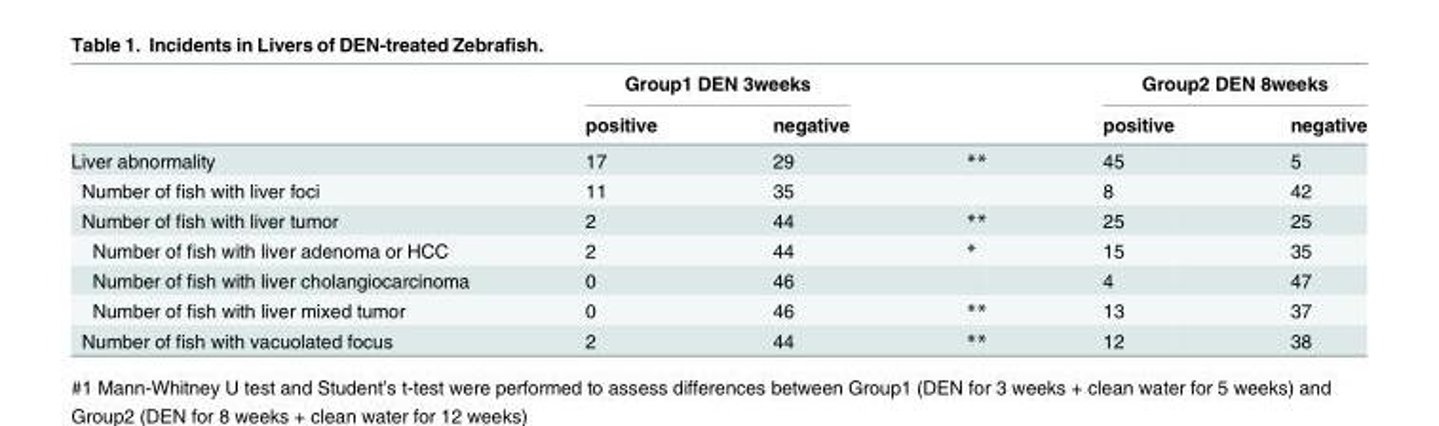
<table><thead><tr><td rowspan="2"></td><td colspan="2">Group1 DEN 3weeks</td><td rowspan="2"></td><td colspan="2">Group2 DEN 8weeks</td></tr><tr><td>positive</td><td>negative</td><td>positive</td><td>negative</td></tr></thead><tbody><tr><td>Liver abnormality</td><td>17</td><td>29</td><td>**</td><td>45</td><td>5</td></tr><tr><td>Number of fish with liver foci</td><td>11</td><td>35</td><td></td><td>8</td><td>42</td></tr><tr><td>Number of fish with liver tumor</td><td>2</td><td>44</td><td>**</td><td>25</td><td>25</td></tr><tr><td>Number of fish with liver adenoma or HCC</td><td>2</td><td>44</td><td>*</td><td>15</td><td>35</td></tr><tr><td>Number of fish with liver cholangiocarcinoma</td><td>0</td><td>46</td><td></td><td>4</td><td>47</td></tr><tr><td>Number of fish with liver mixed tumor</td><td>0</td><td>46</td><td>**</td><td>13</td><td>37</td></tr><tr><td>Number of fish with vacuolated focus</td><td>2</td><td>44</td><td>**</td><td>12</td><td>38</td></tr></tbody></table>